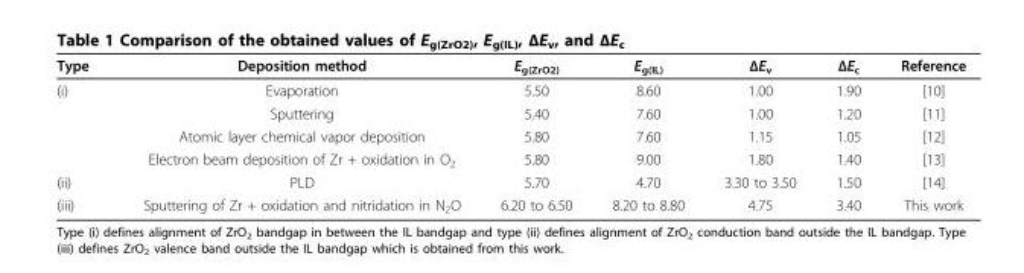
<table><thead><tr><td>Type</td><td>Deposition method</td><td>E<sub>g(ZrO2)</sub></td><td>E<sub>g(IL)</sub></td><td>ΔE<sub>v</sub></td><td>ΔE<sub>c</sub></td><td>Reference</td></tr></thead><tbody><tr><td rowspan="4">(i)</td><td>Evaporation</td><td>5.50</td><td>8.60</td><td>1.00</td><td>1.90</td><td>[10]</td></tr><tr><td>Sputtering</td><td>5.40</td><td>7.60</td><td>1.00</td><td>1.20</td><td>[11]</td></tr><tr><td>Atomic layer chemical vapor deposition</td><td>5.80</td><td>7.60</td><td>1.15</td><td>1.05</td><td>[12]</td></tr><tr><td>Electron beam deposition of Zr + oxidation in O<sub>2</sub></td><td>5.80</td><td>9.00</td><td>1.80</td><td>1.40</td><td>[13]</td></tr><tr><td>(ii)</td><td>PLD</td><td>5.70</td><td>4.70</td><td>3.30 to 3.50</td><td>1.50</td><td>[14]</td></tr><tr><td>(iii)</td><td>Sputtering of Zr + oxidation and nitridation in N<sub>2</sub>O</td><td>6.20 to 6.50</td><td>8.20 to 8.80</td><td>4.75</td><td>3.40</td><td>This work</td></tr></tbody></table>